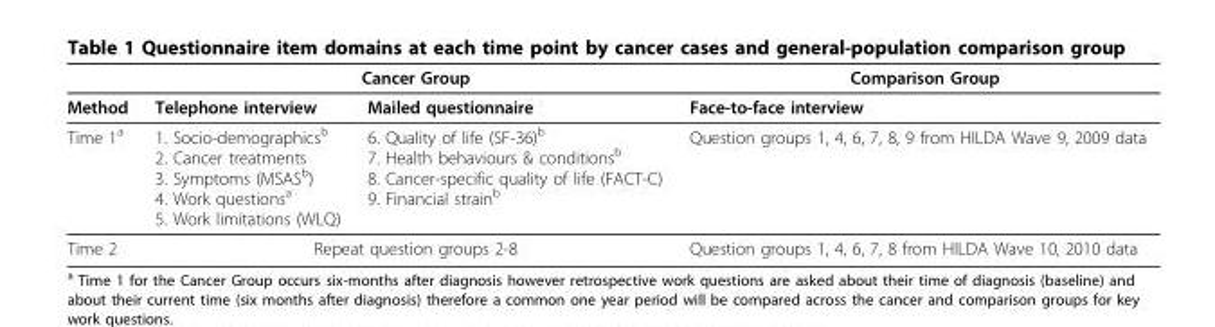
<table><thead><tr><td rowspan="2">Method</td><td colspan="2">Cancer Group</td><td rowspan="2">Comparison Group Face-to-face interview</td></tr><tr><td>Telephone interview</td><td>Mailed questionnaire</td></tr></thead><tbody><tr><td>Time 1<sup>a</sup></td><td>1. Socio-demographics<sup>b</sup> 2. Cancer treatments 3. Symptoms (MSAS<sup>b</sup>) 4. Work questions<sup>a</sup> 5. Work limitations (WLQ)</td><td>6. Quality of life (SF-36)<sup>b</sup> 7. Health behaviours &amp; conditions<sup>b</sup> 8. Cancer-specific quality of life (FACT-C) 9. Financial strain<sup>b</sup></td><td>Question groups 1, 4, 6, 7, 8, 9 from HILDA Wave 9, 2009 data</td></tr><tr><td>Time 2</td><td colspan="2">Repeat question groups 2-8</td><td>Question groups 1, 4, 6, 7, 8 from HILDA Wave 10, 2010 data</td></tr></tbody></table>